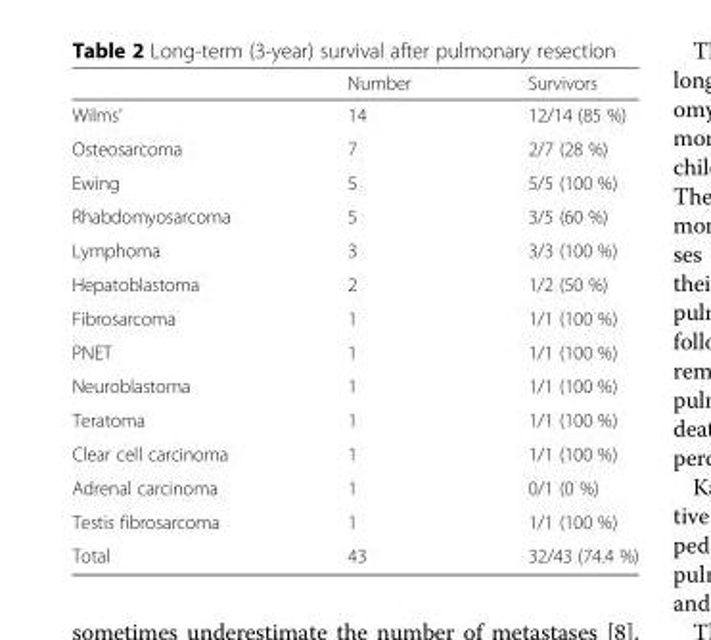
<table><thead><tr><td></td><td>Number</td><td>Survivors</td></tr></thead><tbody><tr><td>Wilms’</td><td>14</td><td>12/14 (85 %)</td></tr><tr><td>Osteosarcoma</td><td>7</td><td>2/7 (28 %)</td></tr><tr><td>Ewing</td><td>5</td><td>5/5 (100 %)</td></tr><tr><td>Rhabdomyosarcoma</td><td>5</td><td>3/5 (60 %)</td></tr><tr><td>Lymphoma</td><td>3</td><td>3/3 (100 %)</td></tr><tr><td>Hepatoblastoma</td><td>2</td><td>1/2 (50 %)</td></tr><tr><td>Fibrosarcoma</td><td>1</td><td>1/1 (100 %)</td></tr><tr><td>PNET</td><td>1</td><td>1/1 (100 %)</td></tr><tr><td>Neuroblastoma</td><td>1</td><td>1/1 (100 %)</td></tr><tr><td>Teratoma</td><td>1</td><td>1/1 (100 %)</td></tr><tr><td>Clear cell carcinoma</td><td>1</td><td>1/1 (100 %)</td></tr><tr><td>Adrenal carcinoma</td><td>1</td><td>0/1 (0 %)</td></tr><tr><td>Testis fibrosarcoma</td><td>1</td><td>1/1 (100 %)</td></tr><tr><td>Total</td><td>43</td><td>32/43 (74.4 %)</td></tr></tbody></table>